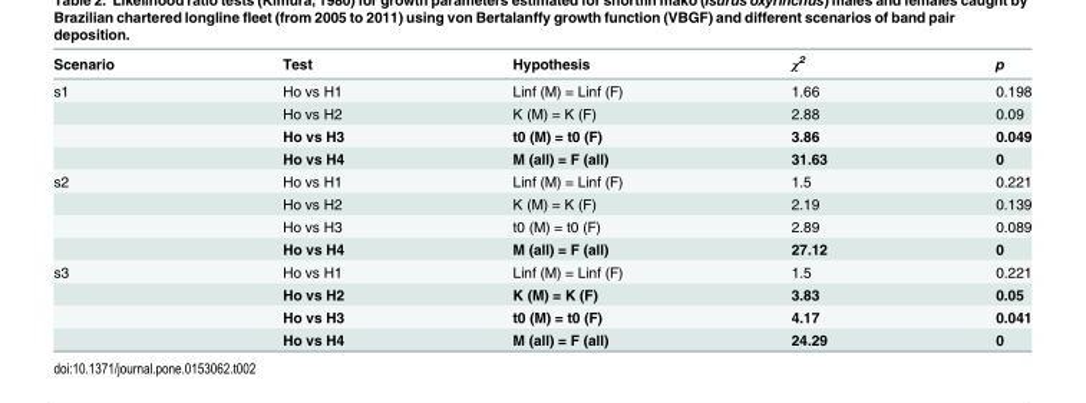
<table><thead><tr><td>Scenario</td><td>Test</td><td>Hypothesis</td><td>χ<sup>2</sup></td><td>p</td></tr></thead><tbody><tr><td rowspan="4">s1</td><td>Ho vs H1</td><td>Linf (M) = Linf (F)</td><td>1.66</td><td>0.198</td></tr><tr><td>Ho vs H2</td><td>K (M) = K (F)</td><td>2.88</td><td>0.09</td></tr><tr><td>Ho vs H3</td><td>t0 (M) = t0 (F)</td><td>3.86</td><td>0.049</td></tr><tr><td>Ho vs H4</td><td>M (all) = F (all)</td><td>31.63</td><td>0</td></tr><tr><td rowspan="4">s2</td><td>Ho vs H1</td><td>Linf (M) = Linf (F)</td><td>1.5</td><td>0.221</td></tr><tr><td>Ho vs H2</td><td>K (M) = K (F)</td><td>2.19</td><td>0.139</td></tr><tr><td>Ho vs H3</td><td>t0 (M) = t0 (F)</td><td>2.89</td><td>0.089</td></tr><tr><td>Ho vs H4</td><td>M (all) = F (all)</td><td>27.12</td><td>0</td></tr><tr><td rowspan="4">s3</td><td>Ho vs H1</td><td>Linf (M) = Linf (F)</td><td>1.5</td><td>0.221</td></tr><tr><td>Ho vs H2</td><td>K (M) = K (F)</td><td>3.83</td><td>0.05</td></tr><tr><td>Ho vs H3</td><td>t0 (M) = t0 (F)</td><td>4.17</td><td>0.041</td></tr><tr><td>Ho vs H4</td><td>M (all) = F (all)</td><td>24.29</td><td>0</td></tr></tbody></table>